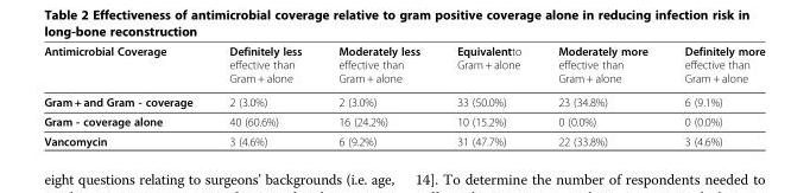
<table><thead><tr><td>Antimicrobial Coverage</td><td>Definitely less effective than Gram + alone</td><td>Moderately less effective than Gram + alone</td><td>Equivalentto Gram + alone</td><td>Moderately more effective than Gram + alone</td><td>Definitely more effective than Gram + alone</td></tr></thead><tbody><tr><td>Gram + and Gram - coverage</td><td>2 (3.0%)</td><td>2 (3.0%)</td><td>33 (50.0%)</td><td>23 (34.8%)</td><td>6 (9.1%)</td></tr><tr><td>Gram - coverage alone</td><td>40 (60.6%)</td><td>16 (24.2%)</td><td>10 (15.2%)</td><td>0 (0.0%)</td><td>0 (0.0%)</td></tr><tr><td>Vancomycin</td><td>3 (4.6%)</td><td>6 (9.2%)</td><td>31 (47.7%)</td><td>22 (33.8%)</td><td>3 (4.6%)</td></tr></tbody></table>